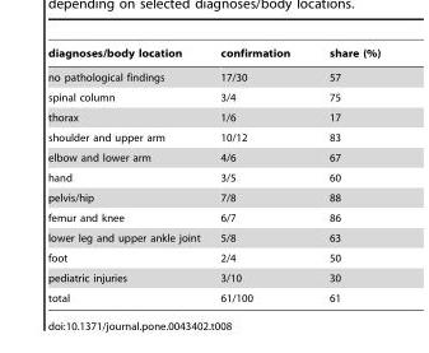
<table><thead><tr><td>diagnoses/body location</td><td>confirmation</td><td>share (%)</td></tr></thead><tbody><tr><td>no pathological findings</td><td>17/30</td><td>57</td></tr><tr><td>spinal column</td><td>3/4</td><td>75</td></tr><tr><td>thorax</td><td>1/6</td><td>17</td></tr><tr><td>shoulder and upper arm</td><td>10/12</td><td>83</td></tr><tr><td>elbow and lower arm</td><td>4/6</td><td>67</td></tr><tr><td>hand</td><td>3/5</td><td>60</td></tr><tr><td>pelvis/hip</td><td>7/8</td><td>88</td></tr><tr><td>femur and knee</td><td>6/7</td><td>86</td></tr><tr><td>lower leg and upper ankle joint</td><td>5/8</td><td>63</td></tr><tr><td>foot</td><td>2/4</td><td>50</td></tr><tr><td>pediatric injuries</td><td>3/10</td><td>30</td></tr><tr><td>total</td><td>61/100</td><td>61</td></tr></tbody></table>